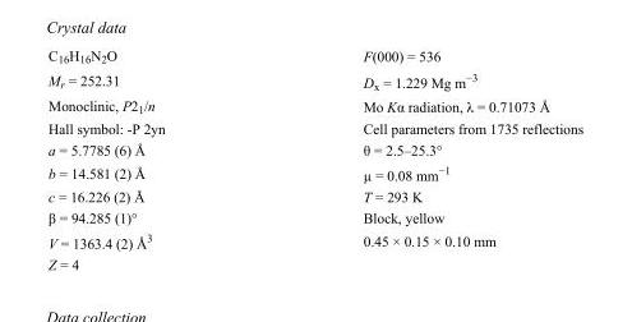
<table><tbody><tr><td>C<sub>16</sub>H<sub>16</sub>N<sub>2</sub>O</td><td>F(000) = 536</td></tr><tr><td>M<sub>r</sub> = 252.31</td><td>D<sub>x</sub> = 1.229 Mg m<sup>−3</sup></td></tr><tr><td>Monoclinic, P2<sub>1</sub>/n</td><td>Mo Kα radiation, λ = 0.71073 Å</td></tr><tr><td>Hall symbol: -P 2yn</td><td>Cell parameters from 1735 reflections</td></tr><tr><td>a = 5.7785 (6) Å</td><td>θ = 2.5–25.3°</td></tr><tr><td>b = 14.581 (2) Å</td><td>µ = 0.08 mm<sup>−1</sup></td></tr><tr><td>c = 16.226 (2) Å</td><td>T = 293 K</td></tr><tr><td>β = 94.285 (1)°</td><td>Block, yellow</td></tr><tr><td>V = 1363.4 (2) Å<sup>3</sup></td><td>0.45 × 0.15 × 0.10 mm</td></tr><tr><td>Z = 4</td><td></td></tr></tbody></table>